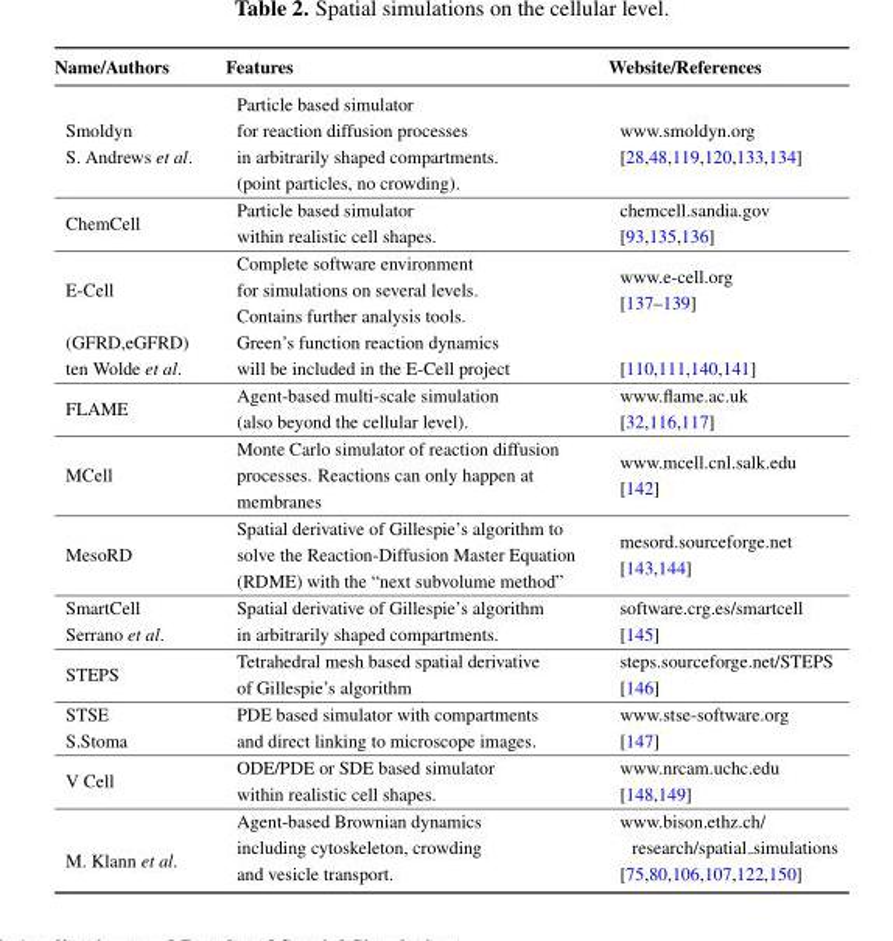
<table><thead><tr><td>Name/Authors</td><td>Features</td><td>Website/References</td></tr></thead><tbody><tr><td>Smoldyn S. Andrews et al.</td><td>Particle based simulator for reaction diffusion processes in arbitrarily shaped compartments. (point particles, no crowding).</td><td>www.smoldyn.org [28,48,119,120,133,134]</td></tr><tr><td>ChemCell</td><td>Particle based simulator within realistic cell shapes.</td><td>chemcell.sandia.gov [93,135,136]</td></tr><tr><td>E-Cell</td><td>Complete software environment for simulations on several levels. Contains further analysis tools.</td><td>www.e-cell.org [137–139]</td></tr><tr><td>(GFRD,eGFRD) ten Wolde et al.</td><td>Green’s function reaction dynamics will be included in the E-Cell project</td><td>[110,111,140,141]</td></tr><tr><td>FLAME</td><td>Agent-based multi-scale simulation (also beyond the cellular level).</td><td>www.flame.ac.uk [32,116,117]</td></tr><tr><td>MCell</td><td>Monte Carlo simulator of reaction diffusion processes. Reactions can only happen at membranes</td><td>www.mcell.cnl.salk.edu [142]</td></tr><tr><td>MesoRD</td><td>Spatial derivative of Gillespie’s algorithm to solve the Reaction-Diffusion Master Equation (RDME) with the “next subvolume method”</td><td>mesord.sourceforge.net [143,144]</td></tr><tr><td>SmartCell Serrano et al.</td><td>Spatial derivative of Gillespie’s algorithm in arbitrarily shaped compartments.</td><td>software.crg.es/smartcell [145]</td></tr><tr><td>STEPS</td><td>Tetrahedral mesh based spatial derivative of Gillespie’s algorithm</td><td>steps.sourceforge.net/STEPS [146]</td></tr><tr><td>STSE S.Stoma</td><td>PDE based simulator with compartments and direct linking to microscope images.</td><td>www.stse-software.org [147]</td></tr><tr><td>V Cell</td><td>ODE/PDE or SDE based simulator within realistic cell shapes.</td><td>www.nrcam.uchc.edu [148,149]</td></tr><tr><td>M. Klann et al.</td><td>Agent-based Brownian dynamics including cytoskeleton, crowding and vesicle transport.</td><td>www.bison.ethz.ch/ research/spatial simulations [75,80,106,107,122,150]</td></tr></tbody></table>